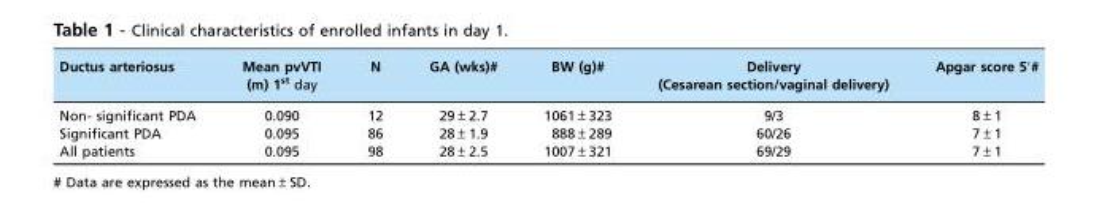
<table><thead><tr><td>Ductus arteriosus</td><td>Mean pvVTI (m) 1<sup>st</sup> day</td><td>N</td><td>GA (wks)#</td><td>BW (g)#</td><td>Delivery (Cesarean section/vaginal delivery)</td><td>Apgar score 5’#</td></tr></thead><tbody><tr><td>Non- significant PDA</td><td>0.090</td><td>12</td><td>29±2.7</td><td>1061±323</td><td>9/3</td><td>8±1</td></tr><tr><td>Significant PDA</td><td>0.095</td><td>86</td><td>28±1.9</td><td>888±289</td><td>60/26</td><td>7±1</td></tr><tr><td>All patients</td><td>0.095</td><td>98</td><td>28±2.5</td><td>1007±321</td><td>69/29</td><td>7±1</td></tr></tbody></table>